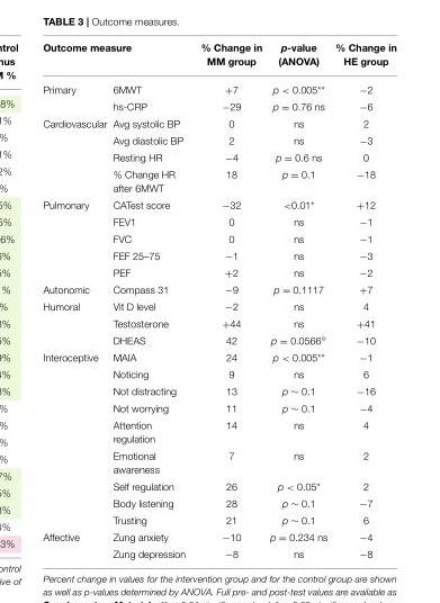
<table><thead><tr><td colspan="2">Outcome measure</td><td rowspan="2">% Change in MM group +7</td><td rowspan="2">p-value (ANOVA) p &lt; 0.005**</td><td rowspan="2">% Change in HE group −2</td></tr><tr><td>Primary</td><td>6MWT</td></tr></thead><tbody><tr><td></td><td>hs-CRP</td><td>−29</td><td>p = 0.76 ns</td><td>−6</td></tr><tr><td rowspan="4">Cardiovascular</td><td>Avg systolic BP</td><td>0</td><td>ns</td><td>2</td></tr><tr><td>Avg diastolic BP</td><td>2</td><td>ns</td><td>−3</td></tr><tr><td>Resting HR</td><td>−4</td><td>p = 0.6 ns</td><td>0</td></tr><tr><td>% Change HR after 6MWT</td><td>18</td><td>p = 0.1</td><td>−18</td></tr><tr><td rowspan="5">Pulmonary</td><td>CATest score</td><td>−32</td><td>&lt;0.01*</td><td>+12</td></tr><tr><td>FEV1</td><td>0</td><td>ns</td><td>−1</td></tr><tr><td>FVC</td><td>0</td><td>ns</td><td>−1</td></tr><tr><td>FEF 25–75</td><td>−1</td><td>ns</td><td>−3</td></tr><tr><td>PEF</td><td>+2</td><td>ns</td><td>−2</td></tr><tr><td>Autonomic</td><td>Compass 31</td><td>−9</td><td>p = 0.1117</td><td>+7</td></tr><tr><td rowspan="3">Humoral</td><td>Vit D level</td><td>−2</td><td>ns</td><td>4</td></tr><tr><td>Testosterone</td><td>+44</td><td>ns</td><td>+41</td></tr><tr><td>DHEAS</td><td>42</td><td>p = 0.0566⋄</td><td>−10</td></tr><tr><td rowspan="9">Interoceptive</td><td>MAIA</td><td>24</td><td>p &lt; 0.005**</td><td>−1</td></tr><tr><td>Noticing</td><td>9</td><td>ns</td><td>6</td></tr><tr><td>Not distracting</td><td>13</td><td>p ∼ 0.1</td><td>−16</td></tr><tr><td>Not worrying</td><td>11</td><td>p ∼ 0.1</td><td>−4</td></tr><tr><td>Attention regulation</td><td>14</td><td>ns</td><td>4</td></tr><tr><td>Emotional awareness</td><td>7</td><td>ns</td><td>2</td></tr><tr><td>Self regulation</td><td>26</td><td>p &lt; 0.05*</td><td>2</td></tr><tr><td>Body listening</td><td>28</td><td>p ∼ 0.1</td><td>−7</td></tr><tr><td>Trusting</td><td>21</td><td>p ∼ 0.1</td><td>6</td></tr><tr><td rowspan="2">Affective</td><td>Zung anxiety</td><td>−10</td><td>p = 0.234 ns</td><td>−4</td></tr><tr><td>Zung depression</td><td>−8</td><td>ns</td><td>−8</td></tr></tbody></table>